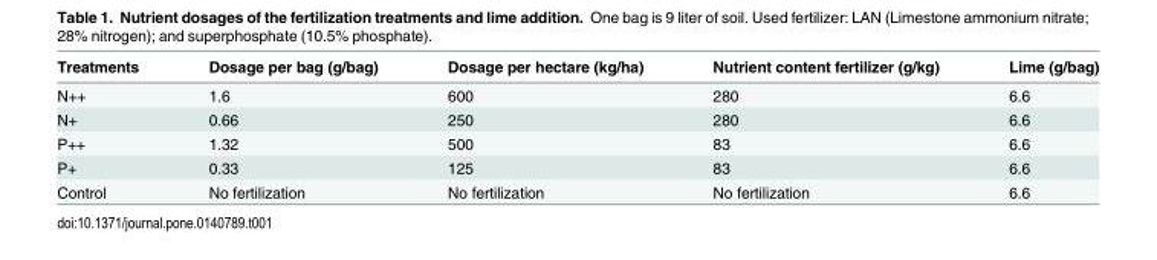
<table><thead><tr><td>Treatments</td><td>Dosage per bag (g/bag)</td><td>Dosage per hectare (kg/ha)</td><td>Nutrient content fertilizer (g/kg)</td><td>Lime (g/bag)</td></tr></thead><tbody><tr><td>N++</td><td>1.6</td><td>600</td><td>280</td><td>6.6</td></tr><tr><td>N+</td><td>0.66</td><td>250</td><td>280</td><td>6.6</td></tr><tr><td>P++</td><td>1.32</td><td>500</td><td>83</td><td>6.6</td></tr><tr><td>P+</td><td>0.33</td><td>125</td><td>83</td><td>6.6</td></tr><tr><td>Control</td><td>No fertilization</td><td>No fertilization</td><td>No fertilization</td><td>6.6</td></tr></tbody></table>